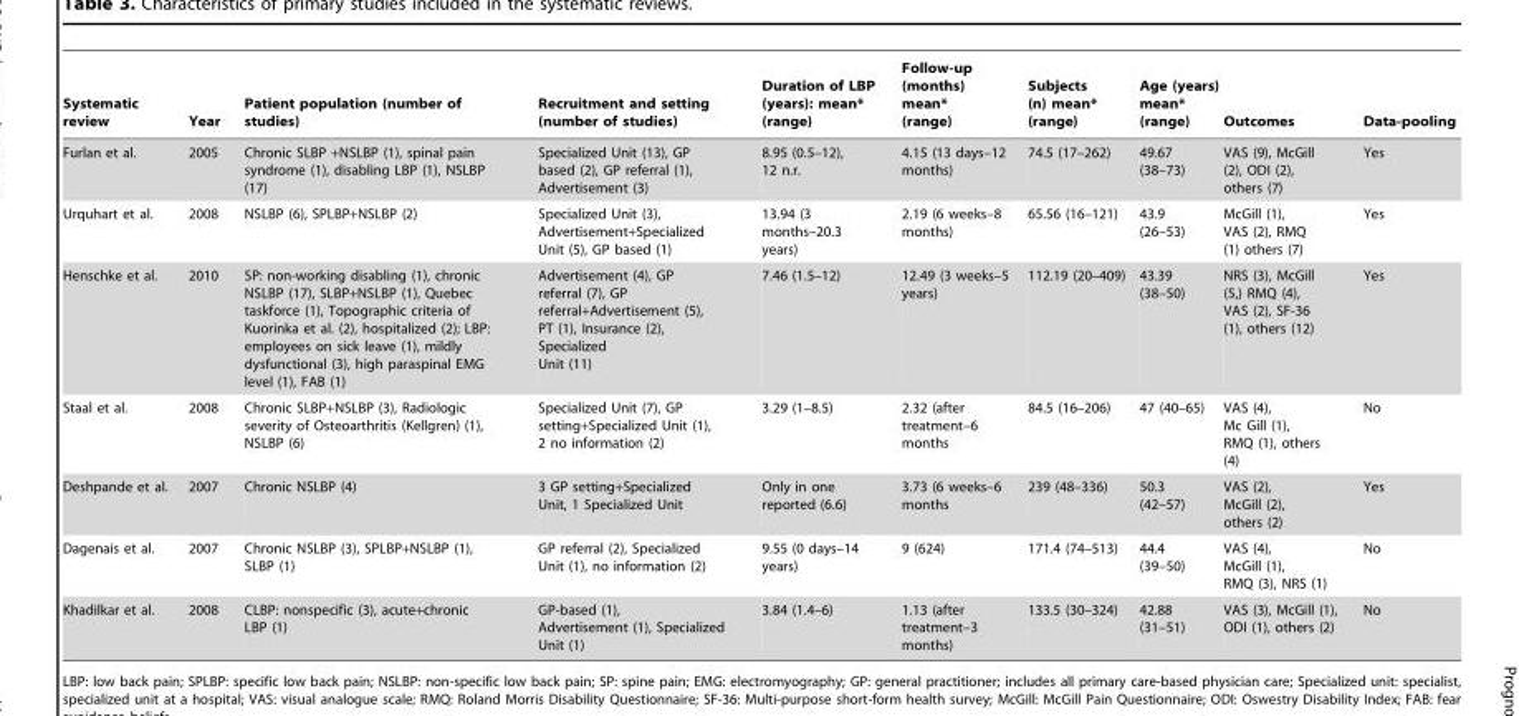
<table><thead><tr><td>Systematic review</td><td>Year</td><td>Patient population (number of studies)</td><td>Recruitment and setting (number of studies)</td><td>Duration of LBP (years): mean* (range)</td><td>Follow-up (months) mean* (range)</td><td>Subjects (n) mean* (range)</td><td>Age (years) mean* (range)</td><td>Outcomes</td><td>Data-pooling</td></tr></thead><tbody><tr><td>Furlan et al.</td><td>2005</td><td>Chronic SLBP +NSLBP (1), spinal pain syndrome (1), disabling LBP (1), NSLBP (17)</td><td>Specialized Unit (13), GP based (2), GP referral (1), Advertisement (3)</td><td>8.95 (0.5–12), 12 n.r.</td><td>4.15 (13 days–12 months)</td><td>74.5 (17–262)</td><td>49.67 (38–73)</td><td>VAS (9), McGill (2), ODI (2), others (7)</td><td>Yes</td></tr><tr><td>Urquhart et al.</td><td>2008</td><td>NSLBP (6), SPLBP+NSLBP (2)</td><td>Specialized Unit (3), Advertisement+Specialized Unit (5), GP based (1)</td><td>13.94 (3 months–20.3 years)</td><td>2.19 (6 weeks–8 months)</td><td>65.56 (16–121)</td><td>43.9 (26–53)</td><td>McGill (1), VAS (2), RMQ (1) others (7)</td><td>Yes</td></tr><tr><td>Henschke et al.</td><td>2010</td><td>SP: non-working disabling (1), chronic NSLBP (17), SLBP+NSLBP (1), Quebec taskforce (1), Topographic criteria of Kuorinka et al. (2), hospitalized (2); LBP: employees on sick leave (1), mildly dysfunctional (3), high paraspinal EMG level (1), FAB (1)</td><td>Advertisement (4), GP referral (7), GP referral+Advertisement (5), PT (1), Insurance (2), Specialized Unit (11)</td><td>7.46 (1.5–12)</td><td>12.49 (3 weeks–5 years)</td><td>112.19 (20–409)</td><td>43.39 (38–50)</td><td>NRS (3), McGill (5,) RMQ (4), VAS (2), SF-36 (1), others (12)</td><td>Yes</td></tr><tr><td>Staal et al.</td><td>2008</td><td>Chronic SLBP+NSLBP (3), Radiologic severity of Osteoarthritis (Kellgren) (1), NSLBP (6)</td><td>Specialized Unit (7), GP setting+Specialized Unit (1), 2 no information (2)</td><td>3.29 (1–8.5)</td><td>2.32 (after treatment–6 months</td><td>84.5 (16–206)</td><td>47 (40–65)</td><td>VAS (4), Mc Gill (1), RMQ (1), others (4)</td><td>No</td></tr><tr><td>Deshpande et al.</td><td>2007</td><td>Chronic NSLBP (4)</td><td>3 GP setting+Specialized Unit, 1 Specialized Unit</td><td>Only in one reported (6.6)</td><td>3.73 (6 weeks–6 months</td><td>239 (48–336)</td><td>50.3 (42–57)</td><td>VAS (2), McGill (2), others (2)</td><td>Yes</td></tr><tr><td>Dagenais et al.</td><td>2007</td><td>Chronic NSLBP (3), SPLBP+NSLBP (1), SLBP (1)</td><td>GP referral (2), Specialized Unit (1), no information (2)</td><td>9.55 (0 days–14 years)</td><td>9 (624)</td><td>171.4 (74–513)</td><td>44.4 (39–50)</td><td>VAS (4), McGill (1), RMQ (3), NRS (1)</td><td>No</td></tr><tr><td>Khadilkar et al.</td><td>2008</td><td>CLBP: nonspecific (3), acute+chronic LBP (1)</td><td>GP-based (1), Advertisement (1), Specialized Unit (1)</td><td>3.84 (1.4–6)</td><td>1.13 (after treatment–3 months)</td><td>133.5 (30–324)</td><td>42.88 (31–51)</td><td>VAS (3), McGill (1), ODI (1), others (2)</td><td>No</td></tr></tbody></table>